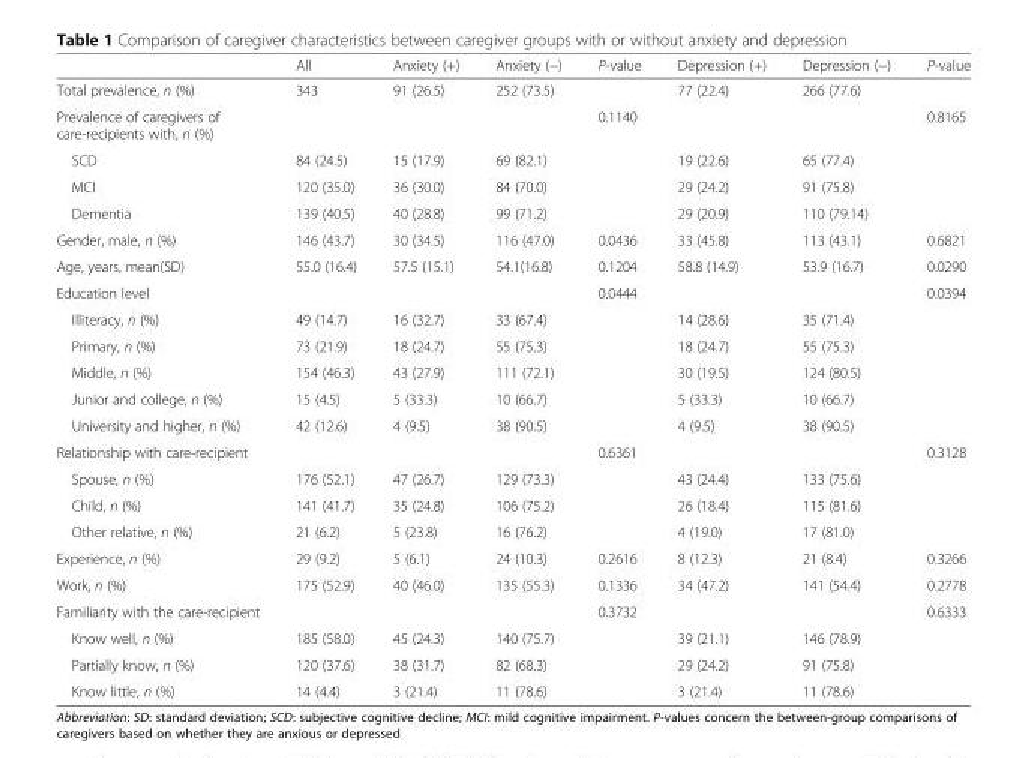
<table><thead><tr><td></td><td>All</td><td>Anxiety (+)</td><td>Anxiety (−)</td><td>P-value</td><td>Depression (+)</td><td>Depression (−)</td><td>P-value</td></tr></thead><tbody><tr><td>Total prevalence, n (%)</td><td>343</td><td>91 (26.5)</td><td>252 (73.5)</td><td></td><td>77 (22.4)</td><td>266 (77.6)</td><td></td></tr><tr><td>Prevalence of caregivers of care-recipients with, n (%)</td><td></td><td></td><td></td><td>0.1140</td><td></td><td></td><td>0.8165</td></tr><tr><td>SCD</td><td>84 (24.5)</td><td>15 (17.9)</td><td>69 (82.1)</td><td></td><td>19 (22.6)</td><td>65 (77.4)</td><td></td></tr><tr><td>MCI</td><td>120 (35.0)</td><td>36 (30.0)</td><td>84 (70.0)</td><td></td><td>29 (24.2)</td><td>91 (75.8)</td><td></td></tr><tr><td>Dementia</td><td>139 (40.5)</td><td>40 (28.8)</td><td>99 (71.2)</td><td></td><td>29 (20.9)</td><td>110 (79.14)</td><td></td></tr><tr><td>Gender, male, n (%)</td><td>146 (43.7)</td><td>30 (34.5)</td><td>116 (47.0)</td><td>0.0436</td><td>33 (45.8)</td><td>113 (43.1)</td><td>0.6821</td></tr><tr><td>Age, years, mean(SD)</td><td>55.0 (16.4)</td><td>57.5 (15.1)</td><td>54.1(16.8)</td><td>0.1204</td><td>58.8 (14.9)</td><td>53.9 (16.7)</td><td>0.0290</td></tr><tr><td>Education level</td><td></td><td></td><td></td><td>0.0444</td><td></td><td></td><td>0.0394</td></tr><tr><td>Illiteracy, n (%)</td><td>49 (14.7)</td><td>16 (32.7)</td><td>33 (67.4)</td><td></td><td>14 (28.6)</td><td>35 (71.4)</td><td></td></tr><tr><td>Primary, n (%)</td><td>73 (21.9)</td><td>18 (24.7)</td><td>55 (75.3)</td><td></td><td>18 (24.7)</td><td>55 (75.3)</td><td></td></tr><tr><td>Middle, n (%)</td><td>154 (46.3)</td><td>43 (27.9)</td><td>111 (72.1)</td><td></td><td>30 (19.5)</td><td>124 (80.5)</td><td></td></tr><tr><td>Junior and college, n (%)</td><td>15 (4.5)</td><td>5 (33.3)</td><td>10 (66.7)</td><td></td><td>5 (33.3)</td><td>10 (66.7)</td><td></td></tr><tr><td>University and higher, n (%)</td><td>42 (12.6)</td><td>4 (9.5)</td><td>38 (90.5)</td><td></td><td>4 (9.5)</td><td>38 (90.5)</td><td></td></tr><tr><td>Relationship with care-recipient</td><td></td><td></td><td></td><td>0.6361</td><td></td><td></td><td>0.3128</td></tr><tr><td>Spouse, n (%)</td><td>176 (52.1)</td><td>47 (26.7)</td><td>129 (73.3)</td><td></td><td>43 (24.4)</td><td>133 (75.6)</td><td></td></tr><tr><td>Child, n (%)</td><td>141 (41.7)</td><td>35 (24.8)</td><td>106 (75.2)</td><td></td><td>26 (18.4)</td><td>115 (81.6)</td><td></td></tr><tr><td>Other relative, n (%)</td><td>21 (6.2)</td><td>5 (23.8)</td><td>16 (76.2)</td><td></td><td>4 (19.0)</td><td>17 (81.0)</td><td></td></tr><tr><td>Experience, n (%)</td><td>29 (9.2)</td><td>5 (6.1)</td><td>24 (10.3)</td><td>0.2616</td><td>8 (12.3)</td><td>21 (8.4)</td><td>0.3266</td></tr><tr><td>Work, n (%)</td><td>175 (52.9)</td><td>40 (46.0)</td><td>135 (55.3)</td><td>0.1336</td><td>34 (47.2)</td><td>141 (54.4)</td><td>0.2778</td></tr><tr><td>Familiarity with the care-recipient</td><td></td><td></td><td></td><td>0.3732</td><td></td><td></td><td>0.6333</td></tr><tr><td>Know well, n (%)</td><td>185 (58.0)</td><td>45 (24.3)</td><td>140 (75.7)</td><td></td><td>39 (21.1)</td><td>146 (78.9)</td><td></td></tr><tr><td>Partially know, n (%)</td><td>120 (37.6)</td><td>38 (31.7)</td><td>82 (68.3)</td><td></td><td>29 (24.2)</td><td>91 (75.8)</td><td></td></tr><tr><td>Know little, n (%)</td><td>14 (4.4)</td><td>3 (21.4)</td><td>11 (78.6)</td><td></td><td>3 (21.4)</td><td>11 (78.6)</td><td></td></tr></tbody></table>